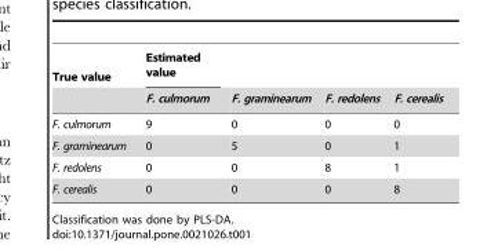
<table><thead><tr><td rowspan="2">True value</td><td rowspan="2">Estimated value F. culmorum</td><td rowspan="2">F. graminearum</td><td rowspan="2">F. redolens</td><td rowspan="2">F. cerealis</td></tr><tr></tr></thead><tbody><tr><td>F. culmorum</td><td>9</td><td>0</td><td>0</td><td>0</td></tr><tr><td>F. graminearum</td><td>0</td><td>5</td><td>0</td><td>1</td></tr><tr><td>F. redolens</td><td>0</td><td>0</td><td>8</td><td>1</td></tr><tr><td>F. cerealis</td><td>0</td><td>0</td><td>0</td><td>8</td></tr></tbody></table>